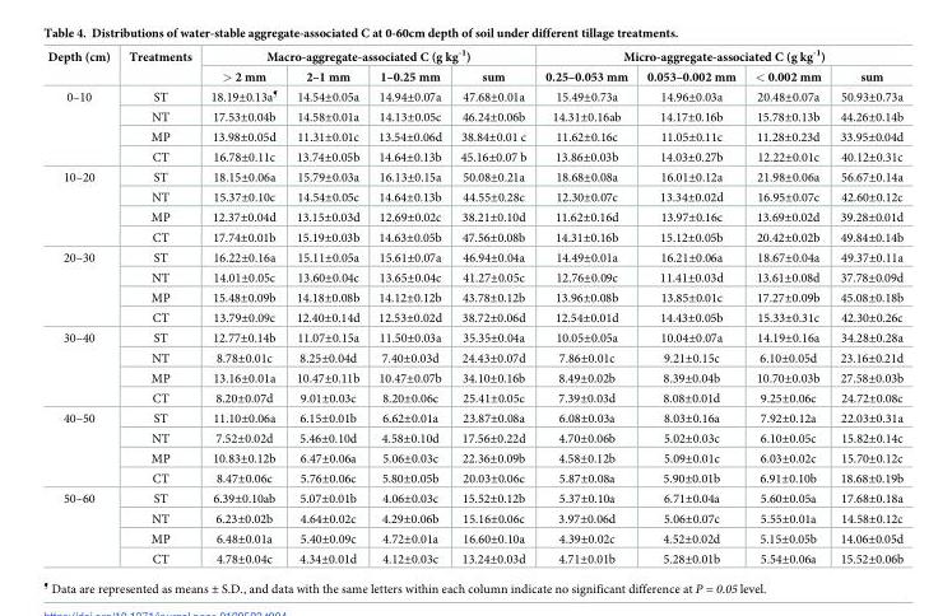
<table><thead><tr><td rowspan="2">Depth (cm)</td><td rowspan="2">Treatments</td><td colspan="4">Macro-aggregate-associated C (g kg<sup>-1</sup>)</td><td colspan="4">Micro-aggregate-associated C (g kg<sup>-1</sup>)</td></tr><tr><td>&gt; 2 mm</td><td>2–1 mm</td><td>1–0.25 mm</td><td>sum</td><td>0.25–0.053 mm</td><td>0.053–0.002 mm</td><td>&lt; 0.002 mm</td><td>sum</td></tr></thead><tbody><tr><td rowspan="4">0–10</td><td>ST</td><td>18.19±0.13a<sup>¶</sup></td><td>14.54±0.05a</td><td>14.94±0.07a</td><td>47.68±0.01a</td><td>15.49±0.73a</td><td>14.96±0.03a</td><td>20.48±0.07a</td><td>50.93±0.73a</td></tr><tr><td>NT</td><td>17.53±0.04b</td><td>14.58±0.01a</td><td>14.13±0.05c</td><td>46.24±0.06b</td><td>14.31±0.16ab</td><td>14.17±0.16b</td><td>15.78±0.13b</td><td>44.26±0.14b</td></tr><tr><td>MP</td><td>13.98±0.05d</td><td>11.31±0.01c</td><td>13.54±0.06d</td><td>38.84±0.01 c</td><td>11.62±0.16c</td><td>11.05±0.11c</td><td>11.28±0.23d</td><td>33.95±0.04d</td></tr><tr><td>CT</td><td>16.78±0.11c</td><td>13.74±0.05b</td><td>14.64±0.13b</td><td>45.16±0.07 b</td><td>13.86±0.03b</td><td>14.03±0.27b</td><td>12.22±0.01c</td><td>40.12±0.31c</td></tr><tr><td rowspan="4">10–20</td><td>ST</td><td>18.15±0.06a</td><td>15.79±0.03a</td><td>16.13±0.15a</td><td>50.08±0.21a</td><td>18.68±0.08a</td><td>16.01±0.12a</td><td>21.98±0.06a</td><td>56.67±0.14a</td></tr><tr><td>NT</td><td>15.37±0.10c</td><td>14.54±0.05c</td><td>14.64±0.13b</td><td>44.55±0.28c</td><td>12.30±0.07c</td><td>13.34±0.02d</td><td>16.95±0.07c</td><td>42.60±0.12c</td></tr><tr><td>MP</td><td>12.37±0.04d</td><td>13.15±0.03d</td><td>12.69±0.02c</td><td>38.21±0.10d</td><td>11.62±0.16d</td><td>13.97±0.16c</td><td>13.69±0.02d</td><td>39.28±0.01d</td></tr><tr><td>CT</td><td>17.74±0.01b</td><td>15.19±0.03b</td><td>14.63±0.05b</td><td>47.56±0.08b</td><td>14.31±0.16b</td><td>15.12±0.05b</td><td>20.42±0.02b</td><td>49.84±0.14b</td></tr><tr><td rowspan="4">20–30</td><td>ST</td><td>16.22±0.16a</td><td>15.11±0.05a</td><td>15.61±0.07a</td><td>46.94±0.04a</td><td>14.49±0.01a</td><td>16.21±0.06a</td><td>18.67±0.04a</td><td>49.37±0.11a</td></tr><tr><td>NT</td><td>14.01±0.05c</td><td>13.60±0.04c</td><td>13.65±0.04c</td><td>41.27±0.05c</td><td>12.76±0.09c</td><td>11.41±0.03d</td><td>13.61±0.08d</td><td>37.78±0.09d</td></tr><tr><td>MP</td><td>15.48±0.09b</td><td>14.18±0.08b</td><td>14.12±0.12b</td><td>43.78±0.12b</td><td>13.96±0.08b</td><td>13.85±0.01c</td><td>17.27±0.09b</td><td>45.08±0.18b</td></tr><tr><td>CT</td><td>13.79±0.09c</td><td>12.40±0.14d</td><td>12.53±0.02d</td><td>38.72±0.06d</td><td>12.54±0.01d</td><td>14.43±0.05b</td><td>15.33±0.31c</td><td>42.30±0.26c</td></tr><tr><td rowspan="4">30–40</td><td>ST</td><td>12.77±0.14b</td><td>11.07±0.15a</td><td>11.50±0.03a</td><td>35.35±0.04a</td><td>10.05±0.05a</td><td>10.04±0.07a</td><td>14.19±0.16a</td><td>34.28±0.28a</td></tr><tr><td>NT</td><td>8.78±0.01c</td><td>8.25±0.04d</td><td>7.40±0.03d</td><td>24.43±0.07d</td><td>7.86±0.01c</td><td>9.21±0.15c</td><td>6.10±0.05d</td><td>23.16±0.21d</td></tr><tr><td>MP</td><td>13.16±0.01a</td><td>10.47±0.11b</td><td>10.47±0.07b</td><td>34.10±0.16b</td><td>8.49±0.02b</td><td>8.39±0.04b</td><td>10.70±0.03b</td><td>27.58±0.03b</td></tr><tr><td>CT</td><td>8.20±0.07d</td><td>9.01±0.03c</td><td>8.20±0.06c</td><td>25.41±0.05c</td><td>7.39±0.03d</td><td>8.08±0.01d</td><td>9.25±0.06c</td><td>24.72±0.08c</td></tr><tr><td rowspan="4">40–50</td><td>ST</td><td>11.10±0.06a</td><td>6.15±0.01b</td><td>6.62±0.01a</td><td>23.87±0.08a</td><td>6.08±0.03a</td><td>8.03±0.16a</td><td>7.92±0.12a</td><td>22.03±0.31a</td></tr><tr><td>NT</td><td>7.52±0.02d</td><td>5.46±0.10d</td><td>4.58±0.10d</td><td>17.56±0.22d</td><td>4.70±0.06b</td><td>5.02±0.03c</td><td>6.10±0.05c</td><td>15.82±0.14c</td></tr><tr><td>MP</td><td>10.83±0.12b</td><td>6.47±0.06a</td><td>5.06±0.03c</td><td>22.36±0.09b</td><td>4.58±0.12b</td><td>5.09±0.01c</td><td>6.03±0.02c</td><td>15.70±0.12c</td></tr><tr><td>CT</td><td>8.47±0.06c</td><td>5.76±0.06c</td><td>5.80±0.05b</td><td>20.03±0.06c</td><td>5.87±0.08a</td><td>5.90±0.01b</td><td>6.91±0.10b</td><td>18.68±0.19b</td></tr><tr><td rowspan="4">50–60</td><td>ST</td><td>6.39±0.10ab</td><td>5.07±0.01b</td><td>4.06±0.03c</td><td>15.52±0.12b</td><td>5.37±0.10a</td><td>6.71±0.04a</td><td>5.60±0.05a</td><td>17.68±0.18a</td></tr><tr><td>NT</td><td>6.23±0.02b</td><td>4.64±0.02c</td><td>4.29±0.06b</td><td>15.16±0.06c</td><td>3.97±0.06d</td><td>5.06±0.07c</td><td>5.55±0.01a</td><td>14.58±0.12c</td></tr><tr><td>MP</td><td>6.48±0.01a</td><td>5.40±0.09c</td><td>4.72±0.01a</td><td>16.60±0.10a</td><td>4.39±0.02c</td><td>4.52±0.02d</td><td>5.15±0.05b</td><td>14.06±0.05d</td></tr><tr><td>CT</td><td>4.78±0.04c</td><td>4.34±0.01d</td><td>4.12±0.03c</td><td>13.24±0.03d</td><td>4.71±0.01b</td><td>5.28±0.01b</td><td>5.54±0.06a</td><td>15.52±0.06b</td></tr></tbody></table>